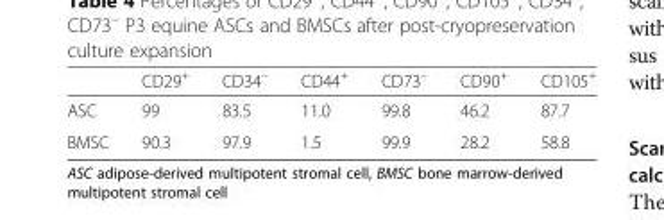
<table><thead><tr><td></td><td>CD29<sup>+</sup></td><td>CD34<sup>–</sup></td><td>CD44<sup>+</sup></td><td>CD73<sup>–</sup></td><td>CD90<sup>+</sup></td><td>CD105<sup>+</sup></td></tr></thead><tbody><tr><td>ASC</td><td>99</td><td>83.5</td><td>11.0</td><td>99.8</td><td>46.2</td><td>87.7</td></tr><tr><td>BMSC</td><td>90.3</td><td>97.9</td><td>1.5</td><td>99.9</td><td>28.2</td><td>58.8</td></tr></tbody></table>